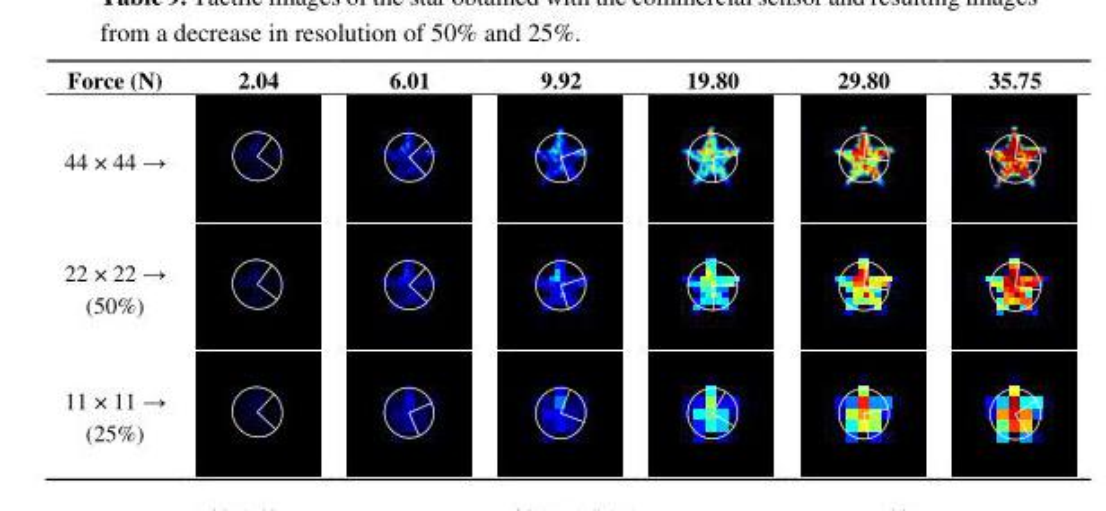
<table><thead><tr><td>Force (N)</td><td>2.04</td><td>6.01</td><td>9.92</td><td>19.80</td><td>29.80</td><td>35.75</td></tr></thead><tbody><tr><td colspan="7">44 × 44 →</td></tr><tr><td colspan="7">22 × 22 → (50%)</td></tr><tr><td>11 × 11 → (25%)</td><td></td><td></td><td></td><td></td><td></td><td></td></tr></tbody></table>